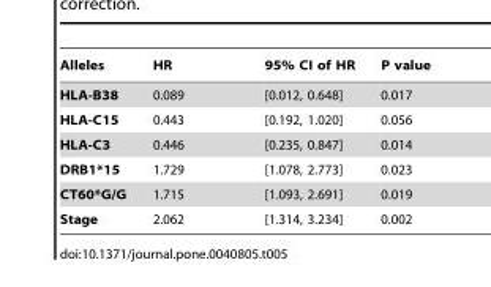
<table><thead><tr><td>Alleles</td><td>HR</td><td>95% CI of HR</td><td>P value</td></tr></thead><tbody><tr><td>HLA-B38</td><td>0.089</td><td>[0.012, 0.648]</td><td>0.017</td></tr><tr><td>HLA-C15</td><td>0.443</td><td>[0.192, 1.020]</td><td>0.056</td></tr><tr><td>HLA-C3</td><td>0.446</td><td>[0.235, 0.847]</td><td>0.014</td></tr><tr><td>DRB1*15</td><td>1.729</td><td>[1.078, 2.773]</td><td>0.023</td></tr><tr><td>CT60*G/G</td><td>1.715</td><td>[1.093, 2.691]</td><td>0.019</td></tr><tr><td>Stage</td><td>2.062</td><td>[1.314, 3.234]</td><td>0.002</td></tr></tbody></table>